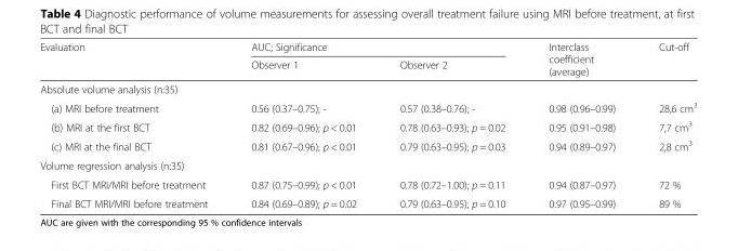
<table><thead><tr><td rowspan="2">Evaluation</td><td colspan="2">AUC; Significance</td><td rowspan="2">Interclass coefficient (average)</td><td rowspan="2">Cut-off</td></tr><tr><td>Observer 1</td><td>Observer 2</td></tr></thead><tbody><tr><td colspan="5">Absolute volume analysis (n:35)</td></tr><tr><td>(a) MRI before treatment</td><td>0.56 (0.37–0.75); -</td><td>0.57 (0.38–0.76); -</td><td>0.98 (0.96–0.99)</td><td>28,6 cm<sup>3</sup></td></tr><tr><td>(b) MRI at the first BCT</td><td>0.82 (0.69–0.96); p &lt; 0.01</td><td>0.78 (0.63–0.93); p = 0.02</td><td>0.95 (0.91–0.98)</td><td>7,7 cm<sup>3</sup></td></tr><tr><td>(c) MRI at the final BCT</td><td>0.81 (0.67–0.96); p &lt; 0.01</td><td>0.79 (0.63–0.95); p = 0.03</td><td>0.94 (0.89–0.97)</td><td>2,8 cm<sup>3</sup></td></tr><tr><td colspan="5">Volume regression analysis (n:35)</td></tr><tr><td>First BCT MRI/MRI before treatment</td><td>0.87 (0.75–0.99); p &lt; 0.01</td><td>0.78 (0.72–1.00); p = 0.11</td><td>0.94 (0.87–0.97)</td><td>72 %</td></tr><tr><td>Final BCT MRI/MRI before treatment</td><td>0.84 (0.69–0.89); p = 0.02</td><td>0.79 (0.63–0.95); p = 0.10</td><td>0.97 (0.95–0.99)</td><td>89 %</td></tr></tbody></table>